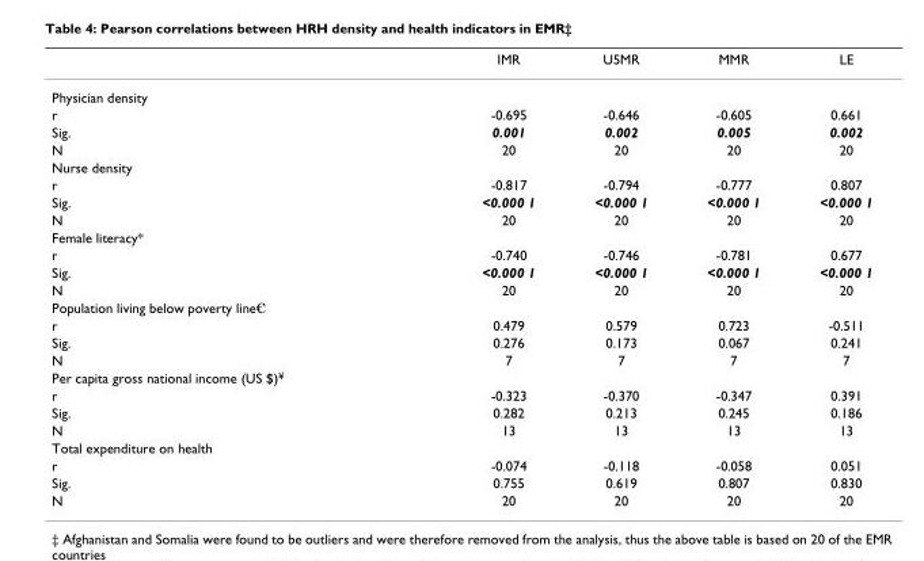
<table><thead><tr><td></td><td>IMR</td><td>U5MR</td><td>MMR</td><td>LE</td></tr></thead><tbody><tr><td colspan="5">Physician density</td></tr><tr><td>r</td><td>-0.695</td><td>-0.646</td><td>-0.605</td><td>0.661</td></tr><tr><td>Sig.</td><td>0.001</td><td>0.002</td><td>0.005</td><td>0.002</td></tr><tr><td>N</td><td>20</td><td>20</td><td>20</td><td>20</td></tr><tr><td colspan="5">Nurse density</td></tr><tr><td>r</td><td>-0.817</td><td>-0.794</td><td>-0.777</td><td>0.807</td></tr><tr><td>Sig.</td><td>&lt;0.000 1</td><td>&lt;0.000 1</td><td>&lt;0.000 1</td><td>&lt;0.000 1</td></tr><tr><td>N</td><td>20</td><td>20</td><td>20</td><td>20</td></tr><tr><td colspan="5">Female literacy*</td></tr><tr><td>r</td><td>-0.740</td><td>-0.746</td><td>-0.781</td><td>0.677</td></tr><tr><td>Sig.</td><td>&lt;0.000 1</td><td>&lt;0.000 1</td><td>&lt;0.000 1</td><td>&lt;0.000 1</td></tr><tr><td>N</td><td>20</td><td>20</td><td>20</td><td>20</td></tr><tr><td colspan="5">Population living below poverty line<sup>€</sup></td></tr><tr><td>r</td><td>0.479</td><td>0.579</td><td>0.723</td><td>-0.511</td></tr><tr><td>Sig.</td><td>0.276</td><td>0.173</td><td>0.067</td><td>0.241</td></tr><tr><td>N</td><td>7</td><td>7</td><td>7</td><td>7</td></tr><tr><td colspan="5">Per capita gross national income (US $)<sup>¥</sup></td></tr><tr><td>r</td><td>-0.323</td><td>-0.370</td><td>-0.347</td><td>0.391</td></tr><tr><td>Sig.</td><td>0.282</td><td>0.213</td><td>0.245</td><td>0.186</td></tr><tr><td>N</td><td>13</td><td>13</td><td>13</td><td>13</td></tr><tr><td colspan="5">Total expenditure on health</td></tr><tr><td>r</td><td>-0.074</td><td>-0.118</td><td>-0.058</td><td>0.051</td></tr><tr><td>Sig.</td><td>0.755</td><td>0.619</td><td>0.807</td><td>0.830</td></tr><tr><td>N</td><td>20</td><td>20</td><td>20</td><td>20</td></tr></tbody></table>